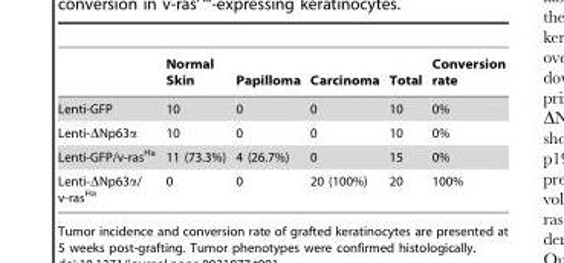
<table><thead><tr><td></td><td>Normal Skin</td><td>Papilloma</td><td>Carcinoma</td><td>Total</td><td>Conversion rate</td></tr></thead><tbody><tr><td>Lenti-GFP</td><td>10</td><td>0</td><td>0</td><td>10</td><td>0%</td></tr><tr><td>Lenti-ΔNp63α</td><td>10</td><td>0</td><td>0</td><td>10</td><td>0%</td></tr><tr><td>Lenti-GFP/v-ras<sup>Ha</sup></td><td>11 (73.3%)</td><td>4 (26.7%)</td><td>0</td><td>15</td><td>0%</td></tr><tr><td>Lenti-ΔNp63α/ v-ras<sup>Ha</sup></td><td>0</td><td>0</td><td>20 (100%)</td><td>20</td><td>100%</td></tr></tbody></table>